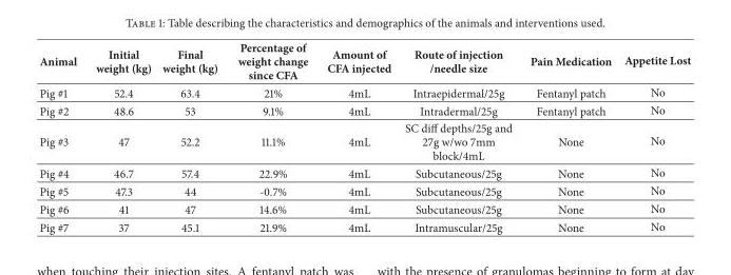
<table><thead><tr><td>Animal</td><td>Initial weight (kg)</td><td>Final weight (kg)</td><td>Percentage of weight change since CFA</td><td>Amount of CFA injected</td><td>Route of injection /needle size</td><td>Pain Medication</td><td>Appetite Lost</td></tr></thead><tbody><tr><td>Pig #1</td><td>52.4</td><td>63.4</td><td>21%</td><td>4mL</td><td>Intraepidermal/25g</td><td>Fentanyl patch</td><td>No</td></tr><tr><td>Pig #2</td><td>48.6</td><td>53</td><td>9.1%</td><td>4mL</td><td>Intradermal/25g</td><td>Fentanyl patch</td><td>No</td></tr><tr><td>Pig #3</td><td>47</td><td>52.2</td><td>11.1%</td><td>4mL</td><td>SC diff depths/25g and 27g w/wo 7mm block/4mL</td><td>None</td><td>No</td></tr><tr><td>Pig #4</td><td>46.7</td><td>57.4</td><td>22.9%</td><td>4mL</td><td>Subcutaneous/25g</td><td>None</td><td>No</td></tr><tr><td>Pig #5</td><td>47.3</td><td>44</td><td>-0.7%</td><td>4mL</td><td>Subcutaneous/25g</td><td>None</td><td>No</td></tr><tr><td>Pig #6</td><td>41</td><td>47</td><td>14.6%</td><td>4mL</td><td>Subcutaneous/25g</td><td>None</td><td>No</td></tr><tr><td>Pig #7</td><td>37</td><td>45.1</td><td>21.9%</td><td>4mL</td><td>Intramuscular/25g</td><td>None</td><td>No</td></tr></tbody></table>